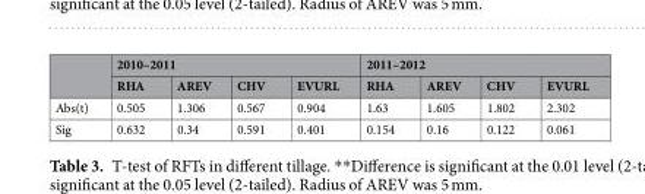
<table><thead><tr><td rowspan="2"></td><td colspan="4">2010–2011</td><td colspan="4">2011–2012</td></tr><tr><td>RHA</td><td>AREV</td><td>CHV</td><td>EVURL</td><td>RHA</td><td>AREV</td><td>CHV</td><td>EVURL</td></tr></thead><tbody><tr><td>Abs(t)</td><td>0.505</td><td>1.306</td><td>0.567</td><td>0.904</td><td>1.63</td><td>1.605</td><td>1.802</td><td>2.302</td></tr><tr><td>Sig</td><td>0.632</td><td>0.34</td><td>0.591</td><td>0.401</td><td>0.154</td><td>0.16</td><td>0.122</td><td>0.061</td></tr></tbody></table>